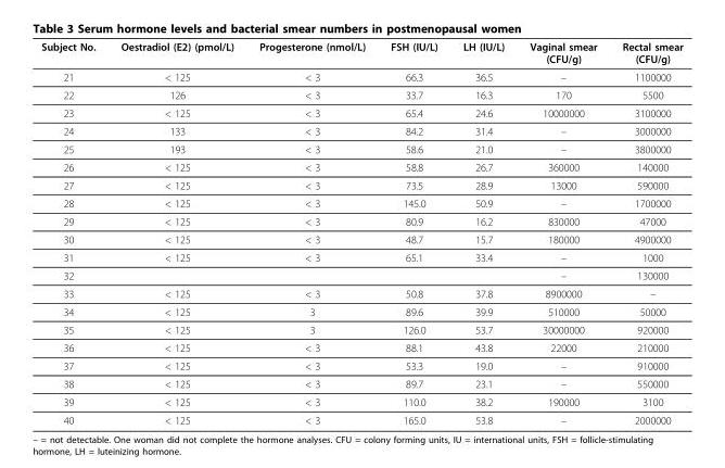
<table><thead><tr><td>Subject No.</td><td>Oestradiol (E2) (pmol/L)</td><td>Progesterone (nmol/L)</td><td>FSH (IU/L)</td><td>LH (IU/L)</td><td>Vaginal smear (CFU/g)</td><td>Rectal smear (CFU/g)</td></tr></thead><tbody><tr><td>21</td><td>&lt; 125</td><td>&lt; 3</td><td>66.3</td><td>36.5</td><td>–</td><td>1100000</td></tr><tr><td>22</td><td>126</td><td>&lt; 3</td><td>33.7</td><td>16.3</td><td>170</td><td>5500</td></tr><tr><td>23</td><td>&lt; 125</td><td>&lt; 3</td><td>65.4</td><td>24.6</td><td>10000000</td><td>3100000</td></tr><tr><td>24</td><td>133</td><td>&lt; 3</td><td>84.2</td><td>31.4</td><td>–</td><td>3000000</td></tr><tr><td>25</td><td>193</td><td>&lt; 3</td><td>58.6</td><td>21.0</td><td>–</td><td>3800000</td></tr><tr><td>26</td><td>&lt; 125</td><td>&lt; 3</td><td>58.8</td><td>26.7</td><td>360000</td><td>140000</td></tr><tr><td>27</td><td>&lt; 125</td><td>&lt; 3</td><td>73.5</td><td>28.9</td><td>13000</td><td>590000</td></tr><tr><td>28</td><td>&lt; 125</td><td>&lt; 3</td><td>145.0</td><td>50.9</td><td>–</td><td>1700000</td></tr><tr><td>29</td><td>&lt; 125</td><td>&lt; 3</td><td>80.9</td><td>16.2</td><td>830000</td><td>47000</td></tr><tr><td>30</td><td>&lt; 125</td><td>&lt; 3</td><td>48.7</td><td>15.7</td><td>180000</td><td>4900000</td></tr><tr><td>31</td><td>&lt; 125</td><td>&lt; 3</td><td>65.1</td><td>33.4</td><td>–</td><td>1000</td></tr><tr><td>32</td><td></td><td></td><td></td><td></td><td>–</td><td>130000</td></tr><tr><td>33</td><td>&lt; 125</td><td>&lt; 3</td><td>50.8</td><td>37.8</td><td>8900000</td><td>–</td></tr><tr><td>34</td><td>&lt; 125</td><td>3</td><td>89.6</td><td>39.9</td><td>510000</td><td>50000</td></tr><tr><td>35</td><td>&lt; 125</td><td>3</td><td>126.0</td><td>53.7</td><td>30000000</td><td>920000</td></tr><tr><td>36</td><td>&lt; 125</td><td>&lt; 3</td><td>88.1</td><td>43.8</td><td>22000</td><td>210000</td></tr><tr><td>37</td><td>&lt; 125</td><td>&lt; 3</td><td>53.3</td><td>19.0</td><td>–</td><td>910000</td></tr><tr><td>38</td><td>&lt; 125</td><td>&lt; 3</td><td>89.7</td><td>23.1</td><td>–</td><td>550000</td></tr><tr><td>39</td><td>&lt; 125</td><td>&lt; 3</td><td>110.0</td><td>38.2</td><td>190000</td><td>3100</td></tr><tr><td>40</td><td>&lt; 125</td><td>&lt; 3</td><td>165.0</td><td>53.8</td><td>–</td><td>2000000</td></tr></tbody></table>